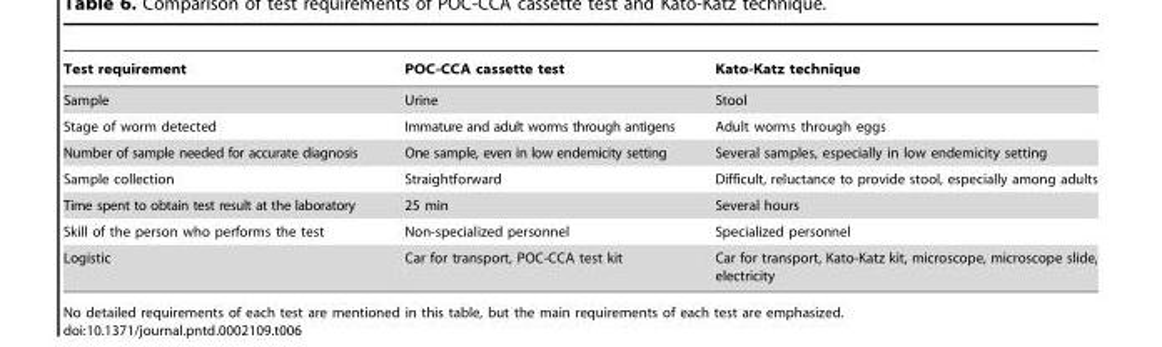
<table><thead><tr><td>Test requirement</td><td>POC-CCA cassette test</td><td>Kato-Katz technique</td></tr></thead><tbody><tr><td>Sample</td><td>Urine</td><td>Stool</td></tr><tr><td>Stage of worm detected</td><td>Immature and adult worms through antigens</td><td>Adult worms through eggs</td></tr><tr><td>Number of sample needed for accurate diagnosis</td><td>One sample, even in low endemicity setting</td><td>Several samples, especially in low endemicity setting</td></tr><tr><td>Sample collection</td><td>Straightforward</td><td>Difficult, reluctance to provide stool, especially among adults</td></tr><tr><td>Time spent to obtain test result at the laboratory</td><td>25 min</td><td>Several hours</td></tr><tr><td>Skill of the person who performs the test</td><td>Non-specialized personnel</td><td>Specialized personnel</td></tr><tr><td>Logistic</td><td>Car for transport, POC-CCA test kit</td><td>Car for transport, Kato-Katz kit, microscope, microscope slide, electricity</td></tr></tbody></table>